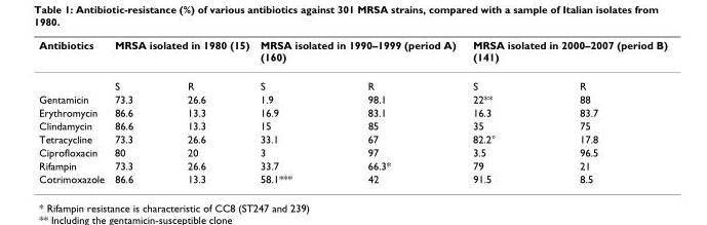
<table><thead><tr><td rowspan="2">Antibiotics</td><td colspan="2">MRSA isolated in 1980 (15)</td><td colspan="2">MRSA isolated in 1990–1999 (period A) (160)</td><td colspan="2">MRSA isolated in 2000–2007 (period B) (141)</td></tr><tr><td>S</td><td>R</td><td>S</td><td>R</td><td>S</td><td>R</td></tr></thead><tbody><tr><td>Gentamicin</td><td>73.3</td><td>26.6</td><td>1.9</td><td>98.1</td><td>22**</td><td>88</td></tr><tr><td>Erythromycin</td><td>86.6</td><td>13.3</td><td>16.9</td><td>83.1</td><td>16.3</td><td>83.7</td></tr><tr><td>Clindamycin</td><td>86.6</td><td>13.3</td><td>15</td><td>85</td><td>35</td><td>75</td></tr><tr><td>Tetracycline</td><td>73.3</td><td>26.6</td><td>33.1</td><td>67</td><td>82.2°</td><td>17.8</td></tr><tr><td>Ciprofloxacin</td><td>80</td><td>20</td><td>3</td><td>97</td><td>3.5</td><td>96.5</td></tr><tr><td>Rifampin</td><td>73.3</td><td>26.6</td><td>33.7</td><td>66.3*</td><td>79</td><td>21</td></tr><tr><td>Cotrimoxazole</td><td>86.6</td><td>13.3</td><td>58.1***</td><td>42</td><td>91.5</td><td>8.5</td></tr></tbody></table>